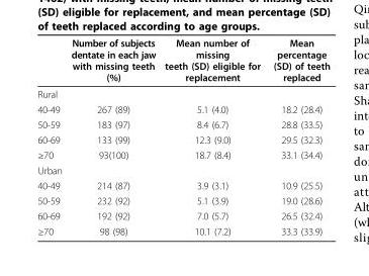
<table><thead><tr><td></td><td>Number of subjects dentate in each jaw with missing teeth (%)</td><td>Mean number of missing teeth (SD) eligible for replacement</td><td>Mean percentage (SD) of teeth replaced</td></tr></thead><tbody><tr><td colspan="4">Rural</td></tr><tr><td>40-49</td><td>267 (89)</td><td>5.1 (4.0)</td><td>18.2 (28.4)</td></tr><tr><td>50-59</td><td>183 (97)</td><td>8.4 (6.7)</td><td>28.8 (33.5)</td></tr><tr><td>60-69</td><td>133 (99)</td><td>12.3 (9.0)</td><td>29.5 (32.3)</td></tr><tr><td>≥70</td><td>93(100)</td><td>18.7 (8.4)</td><td>33.1 (34.4)</td></tr><tr><td colspan="4">Urban</td></tr><tr><td>40-49</td><td>214 (87)</td><td>3.9 (3.1)</td><td>10.9 (25.5)</td></tr><tr><td>50-59</td><td>232 (92)</td><td>5.1 (3.9)</td><td>19.0 (28.6)</td></tr><tr><td>60-69</td><td>192 (92)</td><td>7.0 (5.7)</td><td>26.5 (32.4)</td></tr><tr><td>≥70</td><td>98 (98)</td><td>10.1 (7.2)</td><td>33.3 (33.9)</td></tr></tbody></table>